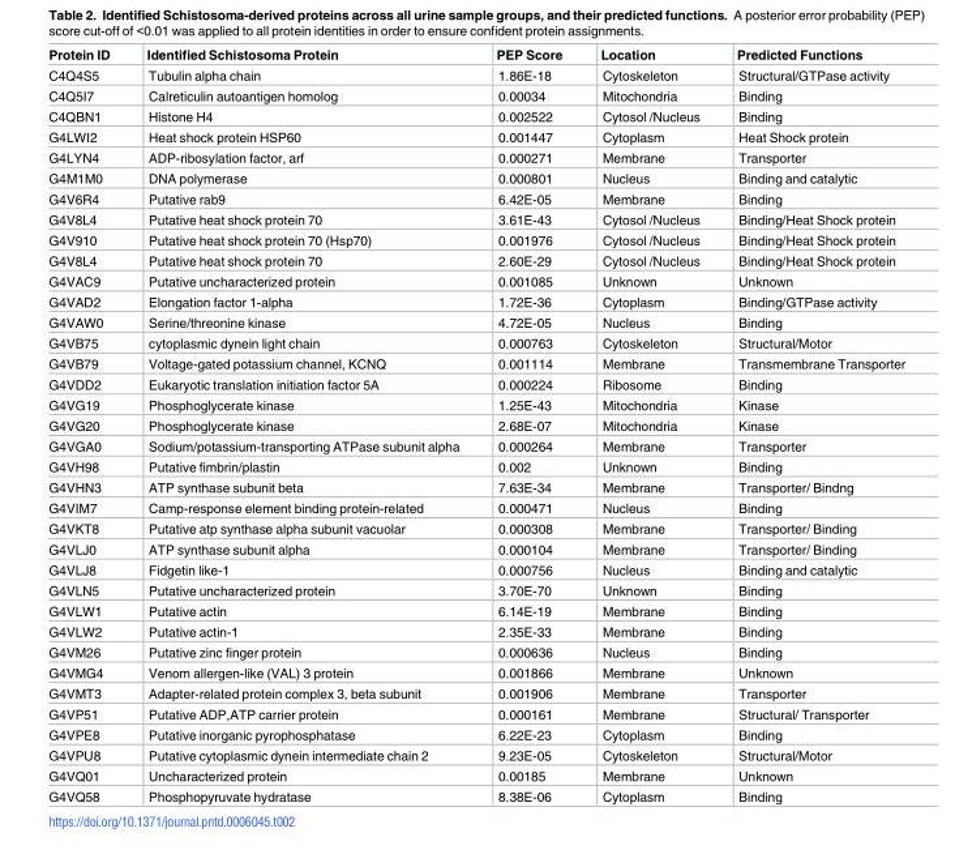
<table><thead><tr><td>Protein ID</td><td>Identified Schistosoma Protein</td><td>PEP Score</td><td>Location</td><td>Predicted Functions</td></tr></thead><tbody><tr><td>C4Q4S5</td><td>Tubulin alpha chain</td><td>1.86E-18</td><td>Cytoskeleton</td><td>Structural/GTPase activity</td></tr><tr><td>C4Q5I7</td><td>Calreticulin autoantigen homolog</td><td>0.00034</td><td>Mitochondria</td><td>Binding</td></tr><tr><td>C4QBN1</td><td>Histone H4</td><td>0.002522</td><td>Cytosol /Nucleus</td><td>Binding</td></tr><tr><td>G4LWI2</td><td>Heat shock protein HSP60</td><td>0.001447</td><td>Cytoplasm</td><td>Heat Shock protein</td></tr><tr><td>G4LYN4</td><td>ADP-ribosylation factor, arf</td><td>0.000271</td><td>Membrane</td><td>Transporter</td></tr><tr><td>G4M1M0</td><td>DNA polymerase</td><td>0.000801</td><td>Nucleus</td><td>Binding and catalytic</td></tr><tr><td>G4V6R4</td><td>Putative rab9</td><td>6.42E-05</td><td>Membrane</td><td>Binding</td></tr><tr><td>G4V8L4</td><td>Putative heat shock protein 70</td><td>3.61E-43</td><td>Cytosol /Nucleus</td><td>Binding/Heat Shock protein</td></tr><tr><td>G4V910</td><td>Putative heat shock protein 70 (Hsp70)</td><td>0.001976</td><td>Cytosol /Nucleus</td><td>Binding/Heat Shock protein</td></tr><tr><td>G4V8L4</td><td>Putative heat shock protein 70</td><td>2.60E-29</td><td>Cytosol /Nucleus</td><td>Binding/Heat Shock protein</td></tr><tr><td>G4VAC9</td><td>Putative uncharacterized protein</td><td>0.001085</td><td>Unknown</td><td>Unknown</td></tr><tr><td>G4VAD2</td><td>Elongation factor 1-alpha</td><td>1.72E-36</td><td>Cytoplasm</td><td>Binding/GTPase activity</td></tr><tr><td>G4VAW0</td><td>Serine/threonine kinase</td><td>4.72E-05</td><td>Nucleus</td><td>Binding</td></tr><tr><td>G4VB75</td><td>cytoplasmic dynein light chain</td><td>0.000763</td><td>Cytoskeleton</td><td>Structural/Motor</td></tr><tr><td>G4VB79</td><td>Voltage-gated potassium channel, KCNQ</td><td>0.001114</td><td>Membrane</td><td>Transmembrane Transporter</td></tr><tr><td>G4VDD2</td><td>Eukaryotic translation initiation factor 5A</td><td>0.000224</td><td>Ribosome</td><td>Binding</td></tr><tr><td>G4VG19</td><td>Phosphoglycerate kinase</td><td>1.25E-43</td><td>Mitochondria</td><td>Kinase</td></tr><tr><td>G4VG20</td><td>Phosphoglycerate kinase</td><td>2.68E-07</td><td>Mitochondria</td><td>Kinase</td></tr><tr><td>G4VGA0</td><td>Sodium/potassium-transporting ATPase subunit alpha</td><td>0.000264</td><td>Membrane</td><td>Transporter</td></tr><tr><td>G4VH98</td><td>Putative fimbrin/plastin</td><td>0.002</td><td>Unknown</td><td>Binding</td></tr><tr><td>G4VHN3</td><td>ATP synthase subunit beta</td><td>7.63E-34</td><td>Membrane</td><td>Transporter/ Bindng</td></tr><tr><td>G4VIM7</td><td>Camp-response element binding protein-related</td><td>0.000471</td><td>Nucleus</td><td>Binding</td></tr><tr><td>G4VKT8</td><td>Putative atp synthase alpha subunit vacuolar</td><td>0.000308</td><td>Membrane</td><td>Transporter/ Binding</td></tr><tr><td>G4VLJ0</td><td>ATP synthase subunit alpha</td><td>0.000104</td><td>Membrane</td><td>Transporter/ Binding</td></tr><tr><td>G4VLJ8</td><td>Fidgetin like-1</td><td>0.000756</td><td>Nucleus</td><td>Binding and catalytic</td></tr><tr><td>G4VLN5</td><td>Putative uncharacterized protein</td><td>3.70E-70</td><td>Unknown</td><td>Binding</td></tr><tr><td>G4VLW1</td><td>Putative actin</td><td>6.14E-19</td><td>Membrane</td><td>Binding</td></tr><tr><td>G4VLW2</td><td>Putative actin-1</td><td>2.35E-33</td><td>Membrane</td><td>Binding</td></tr><tr><td>G4VM26</td><td>Putative zinc finger protein</td><td>0.000636</td><td>Nucleus</td><td>Binding</td></tr><tr><td>G4VMG4</td><td>Venom allergen-like (VAL) 3 protein</td><td>0.001866</td><td>Membrane</td><td>Unknown</td></tr><tr><td>G4VMT3</td><td>Adapter-related protein complex 3, beta subunit</td><td>0.001906</td><td>Membrane</td><td>Transporter</td></tr><tr><td>G4VP51</td><td>Putative ADP,ATP carrier protein</td><td>0.000161</td><td>Membrane</td><td>Structural/ Transporter</td></tr><tr><td>G4VPE8</td><td>Putative inorganic pyrophosphatase</td><td>6.22E-23</td><td>Cytoplasm</td><td>Binding</td></tr><tr><td>G4VPU8</td><td>Putative cytoplasmic dynein intermediate chain 2</td><td>9.23E-05</td><td>Cytoskeleton</td><td>Structural/Motor</td></tr><tr><td>G4VQ01</td><td>Uncharacterized protein</td><td>0.00185</td><td>Membrane</td><td>Unknown</td></tr><tr><td>G4VQ58</td><td>Phosphopyruvate hydratase</td><td>8.38E-06</td><td>Cytoplasm</td><td>Binding</td></tr></tbody></table>